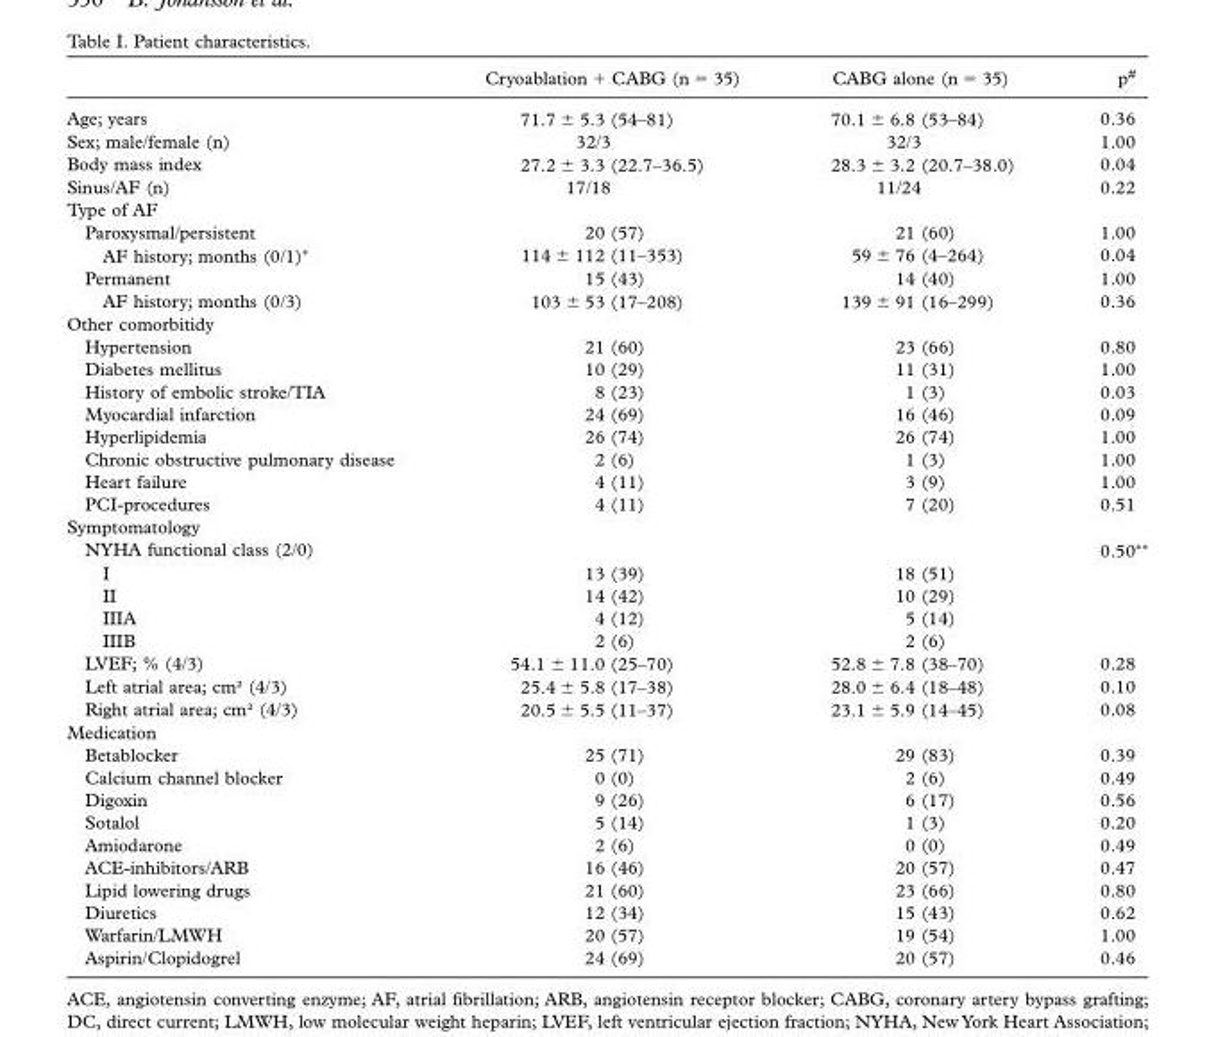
<table><thead><tr><td></td><td>Cryoablation + CABG (n = 35)</td><td>CABG alone (n = 35)</td><td>p#</td></tr></thead><tbody><tr><td>Age ; years</td><td>71.7 ± 5.3 (54 – 81)</td><td>70.1 ± 6.8 (53 – 84)</td><td>0.36</td></tr><tr><td>Sex ; male/female (n)</td><td>32/3</td><td>32/3</td><td>1.00</td></tr><tr><td>Body mass index</td><td>27.2 ± 3.3 (22.7 – 36.5)</td><td>28.3 ± 3.2 (20.7 – 38.0)</td><td>0.04</td></tr><tr><td>Sinus/AF (n)</td><td>17/18</td><td>11/24</td><td>0.22</td></tr><tr><td colspan="4">Type of AF</td></tr><tr><td>Paroxysmal/persistent</td><td>20 (57)</td><td>21 (60)</td><td>1.00</td></tr><tr><td>AF history; months (0/1) *</td><td>114 ± 112 (11 – 353)</td><td>59 ± 76 (4 – 264)</td><td>0.04</td></tr><tr><td>Permanent</td><td>15 (43)</td><td>14 (40)</td><td>1.00</td></tr><tr><td>AF history; months (0/3)</td><td>103 ± 53 (17 – 208)</td><td>139 ± 91 (16 – 299)</td><td>0.36</td></tr><tr><td colspan="4">Other comorbitidy</td></tr><tr><td>Hypertension</td><td>21 (60)</td><td>23 (66)</td><td>0.80</td></tr><tr><td>Diabetes mellitus</td><td>10 (29)</td><td>11 (31)</td><td>1.00</td></tr><tr><td>History of embolic stroke/TIA</td><td>8 (23)</td><td>1 (3)</td><td>0.03</td></tr><tr><td>Myocardial infarction</td><td>24 (69)</td><td>16 (46)</td><td>0.09</td></tr><tr><td>Hyperlipidemia</td><td>26 (74)</td><td>26 (74)</td><td>1.00</td></tr><tr><td>Chronic obstructive pulmonary disease</td><td>2 (6)</td><td>1 (3)</td><td>1.00</td></tr><tr><td>Heart failure</td><td>4 (11)</td><td>3 (9)</td><td>1.00</td></tr><tr><td>PCI-procedures</td><td>4 (11)</td><td>7 (20)</td><td>0.51</td></tr><tr><td colspan="4">Symptomatology</td></tr><tr><td>NYHA functional class (2/0)</td><td></td><td></td><td>0.50 * *</td></tr><tr><td>I</td><td>13 (39)</td><td>18 (51)</td><td></td></tr><tr><td>II</td><td>14 (42)</td><td>10 (29)</td><td></td></tr><tr><td>IIIA</td><td>4 (12)</td><td>5 (14)</td><td></td></tr><tr><td>IIIB</td><td>2 (6)</td><td>2 (6)</td><td></td></tr><tr><td>LVEF; % (4/3)</td><td>54.1 ± 11.0 (25 – 70)</td><td>52.8 ± 7.8 (38 – 70)</td><td>0.28</td></tr><tr><td>Left atrial area; cm ² (4/3)</td><td>25.4 ± 5.8 (17 – 38)</td><td>28.0 ± 6.4 (18 – 48)</td><td>0.10</td></tr><tr><td>Right atrial area; cm ² (4/3)</td><td>20.5 ± 5.5 (11 – 37)</td><td>23.1 ± 5.9 (14 – 45)</td><td>0.08</td></tr><tr><td colspan="4">Medication</td></tr><tr><td>Betablocker</td><td>25 (71)</td><td>29 (83)</td><td>0.39</td></tr><tr><td>Calcium channel blocker</td><td>0 (0)</td><td>2 (6)</td><td>0.49</td></tr><tr><td>Digoxin</td><td>9 (26)</td><td>6 (17)</td><td>0.56</td></tr><tr><td>Sotalol</td><td>5 (14)</td><td>1 (3)</td><td>0.20</td></tr><tr><td>Amiodarone</td><td>2 (6)</td><td>0 (0)</td><td>0.49</td></tr><tr><td>ACE-inhibitors/ARB</td><td>16 (46)</td><td>20 (57)</td><td>0.47</td></tr><tr><td>Lipid lowering drugs</td><td>21 (60)</td><td>23 (66)</td><td>0.80</td></tr><tr><td>Diuretics</td><td>12 (34)</td><td>15 (43)</td><td>0.62</td></tr><tr><td>Warfarin/LMWH</td><td>20 (57)</td><td>19 (54)</td><td>1.00</td></tr><tr><td>Aspirin/Clopidogrel</td><td>24 (69)</td><td>20 (57)</td><td>0.46</td></tr></tbody></table>